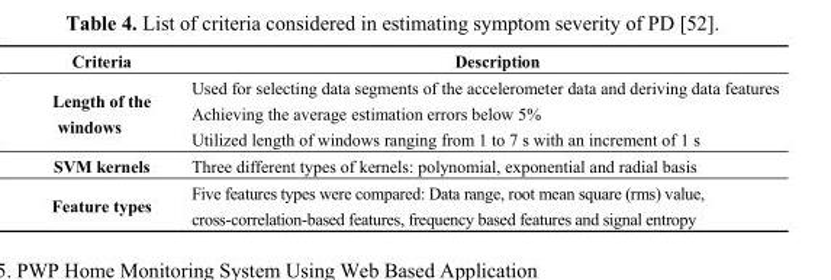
<table><thead><tr><td>Criteria</td><td>Description</td></tr></thead><tbody><tr><td>Length of the windows</td><td>Used for selecting data segments of the accelerometer data and deriving data features Achieving the average estimation errors below 5% Utilized length of windows ranging from 1 to 7 s with an increment of 1 s</td></tr><tr><td>SVM kernels</td><td>Three different types of kernels: polynomial, exponential and radial basis</td></tr><tr><td>Feature types</td><td>Five features types were compared: Data range, root mean square (rms) value, cross-correlation-based features, frequency based features and signal entropy</td></tr></tbody></table>